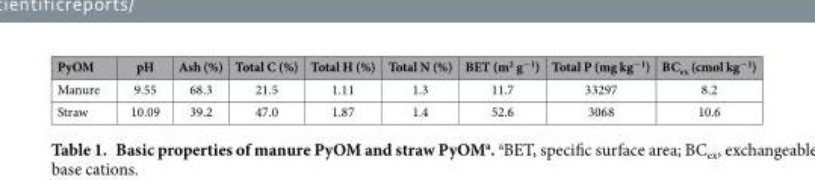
<table><thead><tr><td>PyOM</td><td>pH</td><td>Ash (%)</td><td>Total C (%)</td><td>Total H (%)</td><td>Total N (%)</td><td>BET (m<sup>2</sup> g<sup>−1</sup>)</td><td>Total P (mg kg<sup>−1</sup>)</td><td>BC<sub>ex</sub> (cmol kg<sup>−1</sup>)</td></tr></thead><tbody><tr><td>Manure</td><td>9.55</td><td>68.3</td><td>21.5</td><td>1.11</td><td>1.3</td><td>11.7</td><td>33297</td><td>8.2</td></tr><tr><td>Straw</td><td>10.09</td><td>39.2</td><td>47.0</td><td>1.87</td><td>1.4</td><td>52.6</td><td>3068</td><td>10.6</td></tr></tbody></table>